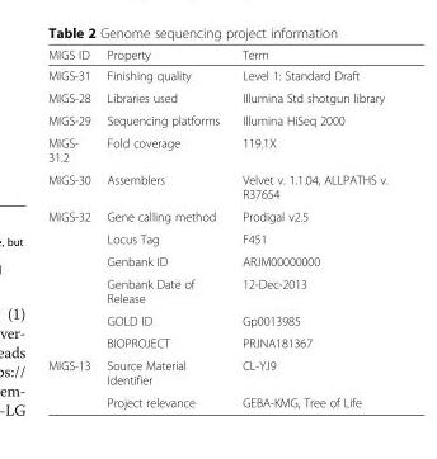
<table><thead><tr><td>MIGS ID</td><td>Property</td><td>Term</td></tr></thead><tbody><tr><td>MIGS-31</td><td>Finishing quality</td><td>Level 1: Standard Draft</td></tr><tr><td>MIGS-28</td><td>Libraries used</td><td>Illumina Std shotgun library</td></tr><tr><td>MIGS-29</td><td>Sequencing platforms</td><td>Illumina HiSeq 2000</td></tr><tr><td>MIGS- 31.2</td><td>Fold coverage</td><td>119.1X</td></tr><tr><td>MIGS-30</td><td>Assemblers</td><td>Velvet v. 1.1.04, ALLPATHS v. R37654</td></tr><tr><td rowspan="6">MIGS-32</td><td>Gene calling method</td><td>Prodigal v2.5</td></tr><tr><td>Locus Tag</td><td>F451</td></tr><tr><td>Genbank ID</td><td>ARJM00000000</td></tr><tr><td>Genbank Date of Release</td><td>12-Dec-2013</td></tr><tr><td>GOLD ID</td><td>Gp0013985</td></tr><tr><td>BIOPROJECT</td><td>PRJNA181367</td></tr><tr><td rowspan="2">MIGS-13</td><td>Source Material Identifier</td><td>CL-YJ9</td></tr><tr><td>Project relevance</td><td>GEBA-KMG, Tree of Life</td></tr></tbody></table>